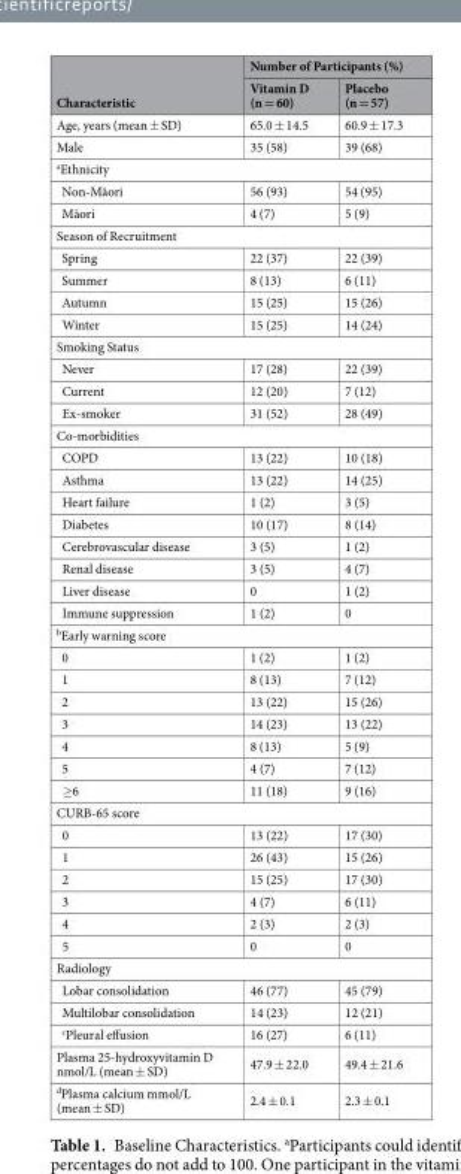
<table><thead><tr><td rowspan="2">Characteristic</td><td colspan="2">Number of Participants (%)</td></tr><tr><td>Vitamin D (n = 60)</td><td>Placebo (n = 57)</td></tr></thead><tbody><tr><td>Age, years (mean ± SD)</td><td>65.0 ± 14.5</td><td>60.9 ± 17.3</td></tr><tr><td>Male</td><td>35 (58)</td><td>39 (68)</td></tr><tr><td colspan="3"><sup>a</sup>Ethnicity</td></tr><tr><td>Non-Māori</td><td>56 (93)</td><td>54 (95)</td></tr><tr><td>Māori</td><td>4 (7)</td><td>5 (9)</td></tr><tr><td colspan="3">Season of Recruitment</td></tr><tr><td>Spring</td><td>22 (37)</td><td>22 (39)</td></tr><tr><td>Summer</td><td>8 (13)</td><td>6 (11)</td></tr><tr><td>Autumn</td><td>15 (25)</td><td>15 (26)</td></tr><tr><td>Winter</td><td>15 (25)</td><td>14 (24)</td></tr><tr><td colspan="3">Smoking Status</td></tr><tr><td>Never</td><td>17 (28)</td><td>22 (39)</td></tr><tr><td>Current</td><td>12 (20)</td><td>7 (12)</td></tr><tr><td>Ex-smoker</td><td>31 (52)</td><td>28 (49)</td></tr><tr><td colspan="3">Co-morbidities</td></tr><tr><td>COPD</td><td>13 (22)</td><td>10 (18)</td></tr><tr><td>Asthma</td><td>13 (22)</td><td>14 (25)</td></tr><tr><td>Heart failure</td><td>1 (2)</td><td>3 (5)</td></tr><tr><td>Diabetes</td><td>10 (17)</td><td>8 (14)</td></tr><tr><td>Cerebrovascular disease</td><td>3 (5)</td><td>1 (2)</td></tr><tr><td>Renal disease</td><td>3 (5)</td><td>4 (7)</td></tr><tr><td>Liver disease</td><td>0</td><td>1 (2)</td></tr><tr><td>Immune suppression</td><td>1 (2)</td><td>0</td></tr><tr><td colspan="3"><sup>b</sup>Early warning score</td></tr><tr><td>0</td><td>1 (2)</td><td>1 (2)</td></tr><tr><td>1</td><td>8 (13)</td><td>7 (12)</td></tr><tr><td>2</td><td>13 (22)</td><td>15 (26)</td></tr><tr><td>3</td><td>14 (23)</td><td>13 (22)</td></tr><tr><td>4</td><td>8 (13)</td><td>5 (9)</td></tr><tr><td>5</td><td>4 (7)</td><td>7 (12)</td></tr><tr><td>≥6</td><td>11 (18)</td><td>9 (16)</td></tr><tr><td colspan="3">CURB-65 score</td></tr><tr><td>0</td><td>13 (22)</td><td>17 (30)</td></tr><tr><td>1</td><td>26 (43)</td><td>15 (26)</td></tr><tr><td>2</td><td>15 (25)</td><td>17 (30)</td></tr><tr><td>3</td><td>4 (7)</td><td>6 (11)</td></tr><tr><td>4</td><td>2 (3)</td><td>2 (3)</td></tr><tr><td>5</td><td>0</td><td>0</td></tr><tr><td colspan="3">Radiology</td></tr><tr><td>Lobar consolidation</td><td>46 (77)</td><td>45 (79)</td></tr><tr><td>Multilobar consolidation</td><td>14 (23)</td><td>12 (21)</td></tr><tr><td><sup>c</sup>Pleural effusion</td><td>16 (27)</td><td>6 (11)</td></tr><tr><td>Plasma 25-hydroxyvitamin D nmol/L (mean ± SD)</td><td>47.9 ± 22.0</td><td>49.4 ± 21.6</td></tr><tr><td><sup>d</sup>Plasma calcium mmol/L (mean ± SD)</td><td>2.4 ± 0.1</td><td>2.3 ± 0.1</td></tr></tbody></table>